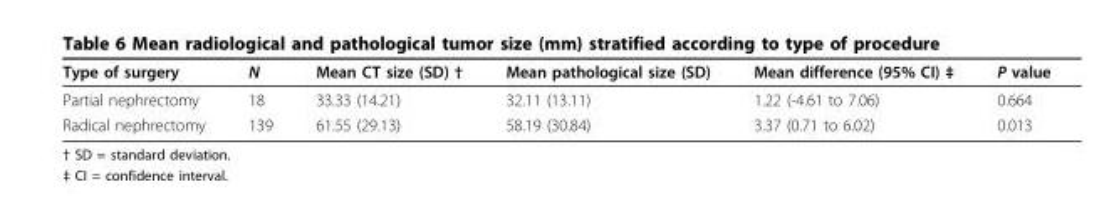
<table><thead><tr><td>Type of surgery</td><td>N</td><td>Mean CT size (SD) †</td><td>Mean pathological size (SD)</td><td>Mean difference (95% CI) ‡</td><td>P value</td></tr></thead><tbody><tr><td>Partial nephrectomy</td><td>18</td><td>33.33 (14.21)</td><td>32.11 (13.11)</td><td>1.22 (-4.61 to 7.06)</td><td>0.664</td></tr><tr><td>Radical nephrectomy</td><td>139</td><td>61.55 (29.13)</td><td>58.19 (30.84)</td><td>3.37 (0.71 to 6.02)</td><td>0.013</td></tr></tbody></table>